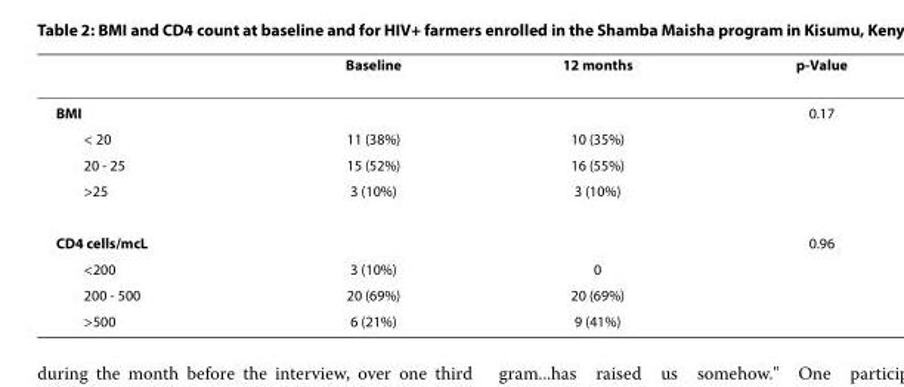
<table><thead><tr><td></td><td>Baseline</td><td>12 months</td><td>p-Value</td></tr></thead><tbody><tr><td>BMI</td><td></td><td></td><td>0.17</td></tr><tr><td>&lt; 20</td><td>11 (38%)</td><td>10 (35%)</td><td></td></tr><tr><td>20 - 25</td><td>15 (52%)</td><td>16 (55%)</td><td></td></tr><tr><td>&gt;25</td><td>3 (10%)</td><td>3 (10%)</td><td></td></tr><tr><td>CD4 cells/mcL</td><td></td><td></td><td>0.96</td></tr><tr><td>&lt;200</td><td>3 (10%)</td><td>0</td><td></td></tr><tr><td>200 - 500</td><td>20 (69%)</td><td>20 (69%)</td><td></td></tr><tr><td>&gt;500</td><td>6 (21%)</td><td>9 (41%)</td><td></td></tr></tbody></table>